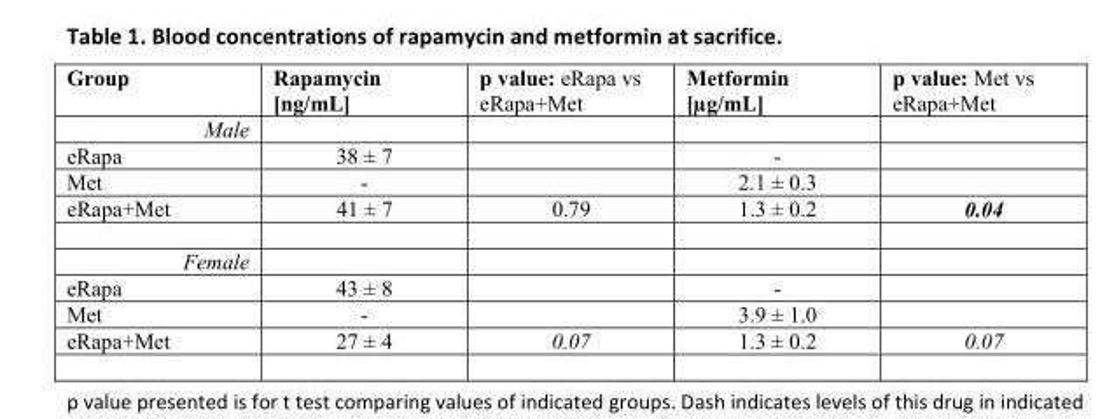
<table><tbody><tr><td>Group</td><td>Rapamycin [ng/mL]</td><td>p value: eRapa vs eRapa+Met</td><td>Metformin [µg/mL]</td><td>p value: Met vs eRapa+Met</td></tr><tr><td colspan="5">Male</td></tr><tr><td>eRapa</td><td>38 ± 7</td><td></td><td>-</td><td></td></tr><tr><td>Met</td><td>-</td><td></td><td>2.1 ± 0.3</td><td></td></tr><tr><td>eRapa+Met</td><td>41 ± 7</td><td>0.79</td><td>1.3 ± 0.2</td><td>0.04</td></tr><tr><td colspan="5">Female</td></tr><tr><td>eRapa</td><td>43 ± 8</td><td></td><td>-</td><td></td></tr><tr><td>Met</td><td>-</td><td></td><td>3.9 ± 1.0</td><td></td></tr><tr><td>eRapa+Met</td><td>27 ± 4</td><td>0.07</td><td>1.3 ± 0.2</td><td>0.07</td></tr></tbody></table>